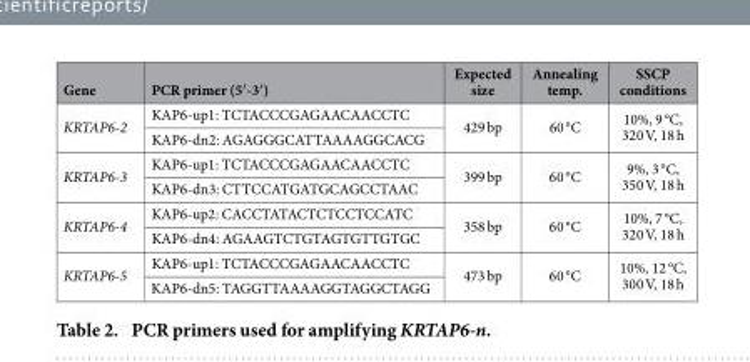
<table><thead><tr><td>Gene</td><td>PCR primer (5′ -3′ )</td><td>Expected size</td><td>Annealing temp.</td><td>SSCP conditions</td></tr></thead><tbody><tr><td rowspan="2">KRTAP6-2</td><td>KAP6-up1: TCTACCCGAGAACAACCTC</td><td rowspan="2">429 bp</td><td rowspan="2">60 °C</td><td rowspan="2">10%, 9 °C, 320 V, 18 h</td></tr><tr><td>KAP6-dn2: AGAGGGCATTAAAAGGCACG</td></tr><tr><td rowspan="2">KRTAP6-3</td><td>KAP6-up1: TCTACCCGAGAACAACCTC</td><td rowspan="2">399 bp</td><td rowspan="2">60 °C</td><td rowspan="2">9%, 3 °C, 350 V, 18 h</td></tr><tr><td>KAP6-dn3: CTTCCATGATGCAGCCTAAC</td></tr><tr><td rowspan="2">KRTAP6-4</td><td>KAP6-up2: CACCTATACTCTCCTCCATC</td><td rowspan="2">358 bp</td><td rowspan="2">60 °C</td><td rowspan="2">10%, 7 °C, 320 V, 18 h</td></tr><tr><td>KAP6-dn4: AGAAGTCTGTAGTGTTGTGC</td></tr><tr><td rowspan="2">KRTAP6-5</td><td>KAP6-up1: TCTACCCGAGAACAACCTC</td><td rowspan="2">473 bp</td><td rowspan="2">60 °C</td><td rowspan="2">10%, 12 °C, 300 V, 18 h</td></tr><tr><td>KAP6-dn5: TAGGTTAAAAGGTAGGCTAGG</td></tr></tbody></table>